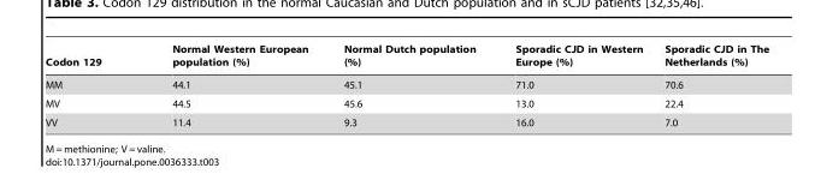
<table><thead><tr><td>Codon 129</td><td>Normal Western European population (%)</td><td>Normal Dutch population (%)</td><td>Sporadic CJD in Western Europe (%)</td><td>Sporadic CJD in The Netherlands (%)</td></tr></thead><tbody><tr><td>MM</td><td>44.1</td><td>45.1</td><td>71.0</td><td>70.6</td></tr><tr><td>MV</td><td>44.5</td><td>45.6</td><td>13.0</td><td>22.4</td></tr><tr><td>VV</td><td>11.4</td><td>9.3</td><td>16.0</td><td>7.0</td></tr></tbody></table>